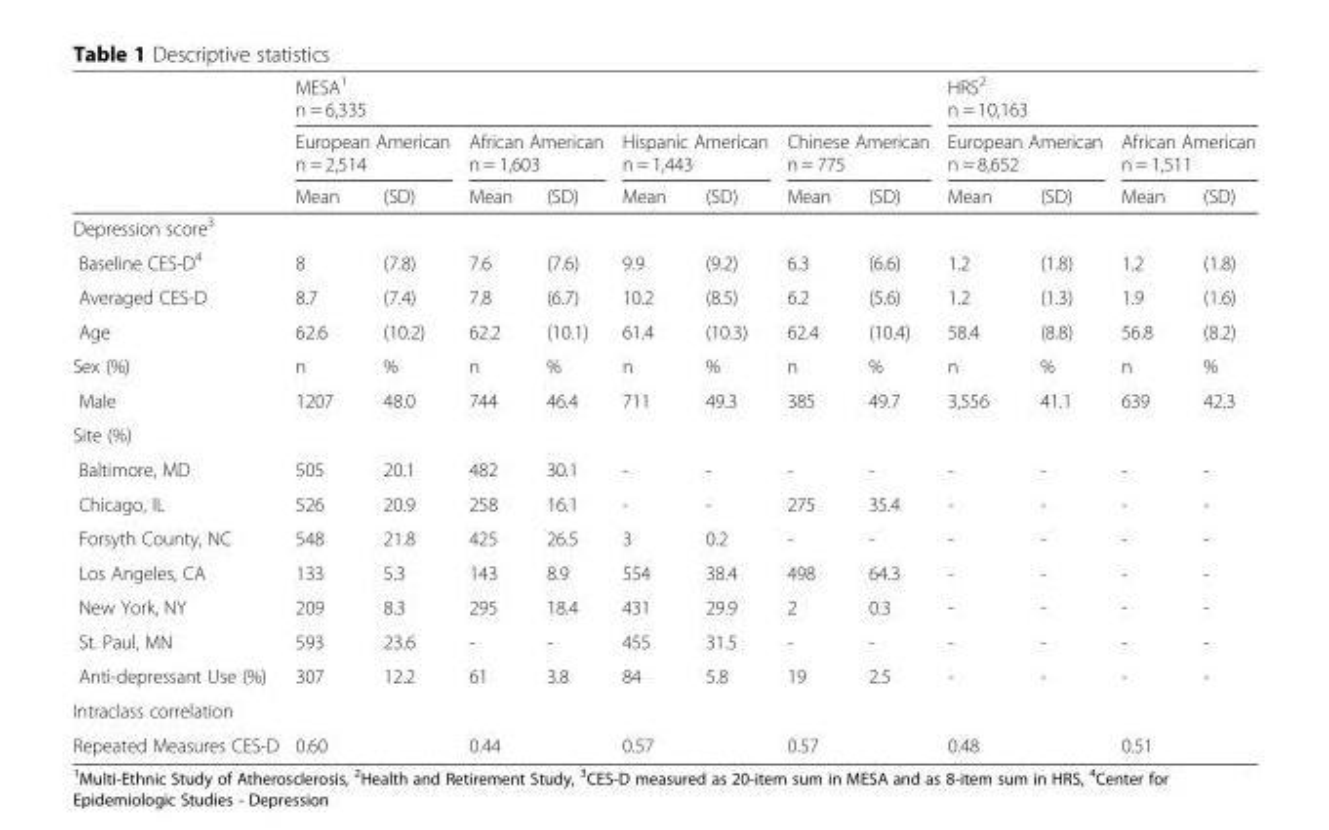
<table><thead><tr><td rowspan="5"></td><td rowspan="2" colspan="8">MESA<sup>1</sup> n = 6,335</td><td rowspan="2" colspan="4">HRS<sup>2</sup> n = 10,163</td></tr><tr></tr><tr><td rowspan="2" colspan="2">European American n = 2,514</td><td rowspan="2" colspan="2">African American n = 1,603</td><td rowspan="2" colspan="2">Hispanic American n = 1,443</td><td rowspan="2" colspan="2">Chinese American n = 775</td><td rowspan="2" colspan="2">European American n = 8,652</td><td rowspan="2" colspan="2">African American n = 1,511</td></tr><tr></tr><tr><td>Mean</td><td>(SD)</td><td>Mean</td><td>(SD)</td><td>Mean</td><td>(SD)</td><td>Mean</td><td>(SD)</td><td>Mean</td><td>(SD)</td><td>Mean</td><td>(SD)</td></tr></thead><tbody><tr><td colspan="13">Depression score<sup>3</sup></td></tr><tr><td>Baseline CES-D<sup>4</sup></td><td>8</td><td>(7.8)</td><td>7.6</td><td>(7.6)</td><td>9.9</td><td>(9.2)</td><td>6.3</td><td>(6.6)</td><td>1.2</td><td>(1.8)</td><td>1.2</td><td>(1.8)</td></tr><tr><td>Averaged CES-D</td><td>8.7</td><td>(7.4)</td><td>7.8</td><td>(6.7)</td><td>10.2</td><td>(8.5)</td><td>6.2</td><td>(5.6)</td><td>1.2</td><td>(1.3)</td><td>1.9</td><td>(1.6)</td></tr><tr><td>Age</td><td>62.6</td><td>(10.2)</td><td>62.2</td><td>(10.1)</td><td>61.4</td><td>(10.3)</td><td>62.4</td><td>(10.4)</td><td>58.4</td><td>(8.8)</td><td>56.8</td><td>(8.2)</td></tr><tr><td>Sex (%)</td><td>n</td><td>%</td><td>n</td><td>%</td><td>n</td><td>%</td><td>n</td><td>%</td><td>n</td><td>%</td><td>n</td><td>%</td></tr><tr><td>Male</td><td>1207</td><td>48.0</td><td>744</td><td>46.4</td><td>711</td><td>49.3</td><td>385</td><td>49.7</td><td>3,556</td><td>41.1</td><td>639</td><td>42.3</td></tr><tr><td colspan="13">Site (%)</td></tr><tr><td>Baltimore, MD</td><td>505</td><td>20.1</td><td>482</td><td>30.1</td><td>-</td><td>-</td><td>-</td><td>-</td><td>-</td><td>-</td><td>-</td><td>-</td></tr><tr><td>Chicago, IL</td><td>526</td><td>20.9</td><td>258</td><td>16.1</td><td>-</td><td>-</td><td>275</td><td>35.4</td><td>-</td><td>-</td><td>-</td><td>-</td></tr><tr><td>Forsyth County, NC</td><td>548</td><td>21.8</td><td>425</td><td>26.5</td><td>3</td><td>0.2</td><td>-</td><td>-</td><td>-</td><td>-</td><td>-</td><td>-</td></tr><tr><td>Los Angeles, CA</td><td>133</td><td>5.3</td><td>143</td><td>8.9</td><td>554</td><td>38.4</td><td>498</td><td>64.3</td><td>-</td><td>-</td><td>-</td><td>-</td></tr><tr><td>New York, NY</td><td>209</td><td>8.3</td><td>295</td><td>18.4</td><td>431</td><td>29.9</td><td>2</td><td>0.3</td><td>-</td><td>-</td><td>-</td><td>-</td></tr><tr><td>St. Paul, MN</td><td>593</td><td>23.6</td><td>-</td><td>-</td><td>455</td><td>31.5</td><td>-</td><td>-</td><td>-</td><td>-</td><td>-</td><td>-</td></tr><tr><td>Anti-depressant Use (%)</td><td>307</td><td>12.2</td><td>61</td><td>3.8</td><td>84</td><td>5.8</td><td>19</td><td>2.5</td><td>-</td><td>-</td><td>-</td><td>-</td></tr><tr><td colspan="13">Intraclass correlation</td></tr><tr><td>Repeated Measures CES-D</td><td>0.60</td><td></td><td>0.44</td><td></td><td>0.57</td><td></td><td>0.57</td><td></td><td>0.48</td><td></td><td>0.51</td><td></td></tr></tbody></table>